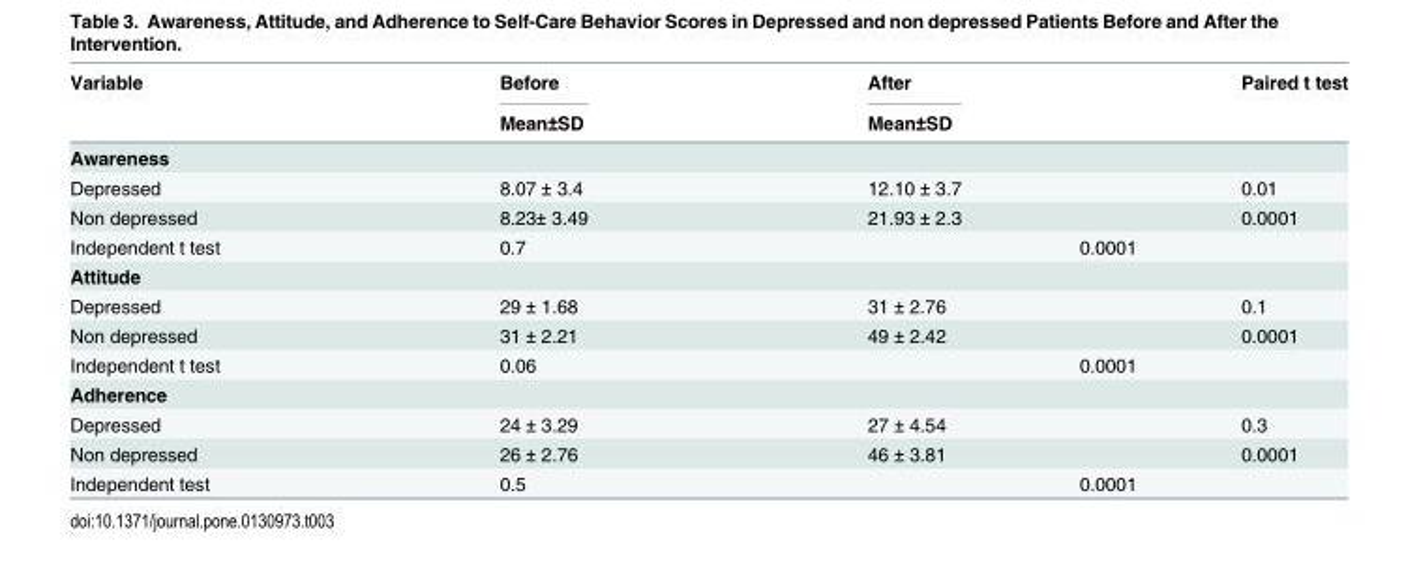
<table><thead><tr><td rowspan="2">Variable</td><td rowspan="2">Before Mean±SD</td><td rowspan="2">After Mean±SD</td><td rowspan="2">Paired t test</td></tr><tr></tr></thead><tbody><tr><td colspan="4">Awareness</td></tr><tr><td>Depressed</td><td>8.07 ± 3.4</td><td>12.10 ± 3.7</td><td>0.01</td></tr><tr><td>Non depressed</td><td>8.23± 3.49</td><td>21.93 ± 2.3</td><td>0.0001</td></tr><tr><td>Independent t test</td><td>0.7</td><td colspan="2">0.0001</td></tr><tr><td colspan="4">Attitude</td></tr><tr><td>Depressed</td><td>29 ± 1.68</td><td>31 ± 2.76</td><td>0.1</td></tr><tr><td>Non depressed</td><td>31 ± 2.21</td><td>49 ± 2.42</td><td>0.0001</td></tr><tr><td>Independent t test</td><td>0.06</td><td colspan="2">0.0001</td></tr><tr><td colspan="4">Adherence</td></tr><tr><td>Depressed</td><td>24 ± 3.29</td><td>27 ± 4.54</td><td>0.3</td></tr><tr><td>Non depressed</td><td>26 ± 2.76</td><td>46 ± 3.81</td><td>0.0001</td></tr><tr><td>Independent test</td><td>0.5</td><td colspan="2">0.0001</td></tr></tbody></table>